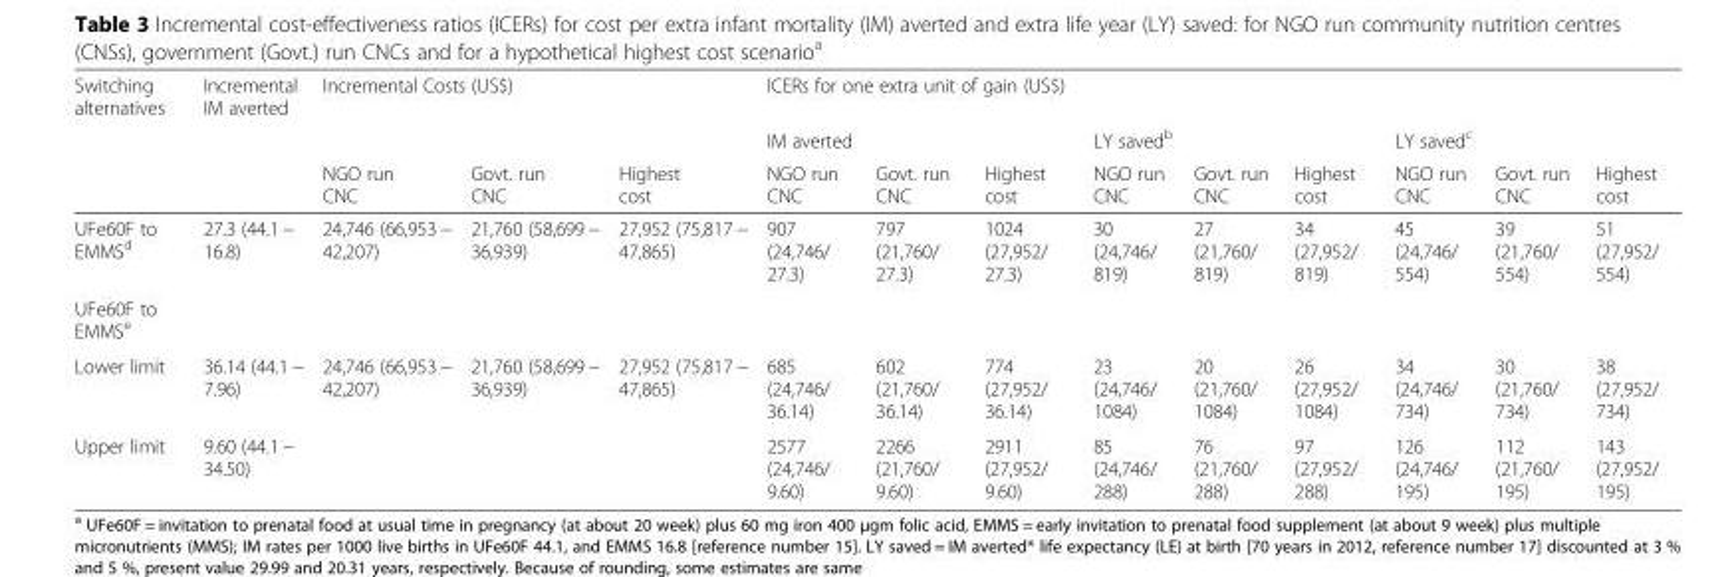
<table><thead><tr><td rowspan="3">Switching alternatives</td><td rowspan="3">Incremental IM averted</td><td colspan="3">Incremental Costs (US$)</td><td colspan="9">ICERs for one extra unit of gain (US$)</td></tr><tr><td rowspan="2">NGO run CNC</td><td rowspan="2">Govt. run CNC</td><td rowspan="2">Highest cost</td><td colspan="3">IM averted</td><td colspan="3">LY saved<sup>b</sup></td><td colspan="3">LY saved<sup>c</sup></td></tr><tr><td>NGO run CNC</td><td>Govt. run CNC</td><td>Highest cost</td><td>NGO run CNC</td><td>Govt. run CNC</td><td>Highest cost</td><td>NGO run CNC</td><td>Govt. run CNC</td><td>Highest cost</td></tr></thead><tbody><tr><td>UFe60F to EMMS<sup>d</sup></td><td>27.3 (44.1 − 16.8)</td><td>24,746 (66,953 − 42,207)</td><td>21,760 (58,699 − 36,939)</td><td>27,952 (75,817 − 47,865)</td><td>907 (24,746/ 27.3)</td><td>797 (21,760/ 27.3)</td><td>1024 (27,952/ 27.3)</td><td>30 (24,746/ 819)</td><td>27 (21,760/ 819)</td><td>34 (27,952/ 819)</td><td>45 (24,746/ 554)</td><td>39 (21,760/ 554)</td><td>51 (27,952/ 554)</td></tr><tr><td colspan="14">UFe60F to EMMS<sup>e</sup></td></tr><tr><td>Lower limit</td><td>36.14 (44.1 − 7.96)</td><td>24,746 (66,953 − 42,207)</td><td>21,760 (58,699 − 36,939)</td><td>27,952 (75,817 − 47,865)</td><td>685 (24,746/ 36.14)</td><td>602 (21,760/ 36.14)</td><td>774 (27,952/ 36.14)</td><td>23 (24,746/ 1084)</td><td>20 (21,760/ 1084)</td><td>26 (27,952/ 1084)</td><td>34 (24,746/ 734)</td><td>30 (21,760/ 734)</td><td>38 (27,952/ 734)</td></tr><tr><td>Upper limit</td><td>9.60 (44.1 − 34.50)</td><td></td><td></td><td></td><td>2577 (24,746/ 9.60)</td><td>2266 (21,760/ 9.60)</td><td>2911 (27,952/ 9.60)</td><td>85 (24,746/ 288)</td><td>76 (21,760/ 288)</td><td>97 (27,952/ 288)</td><td>126 (24,746/ 195)</td><td>112 (21,760/ 195)</td><td>143 (27,952/ 195)</td></tr></tbody></table>